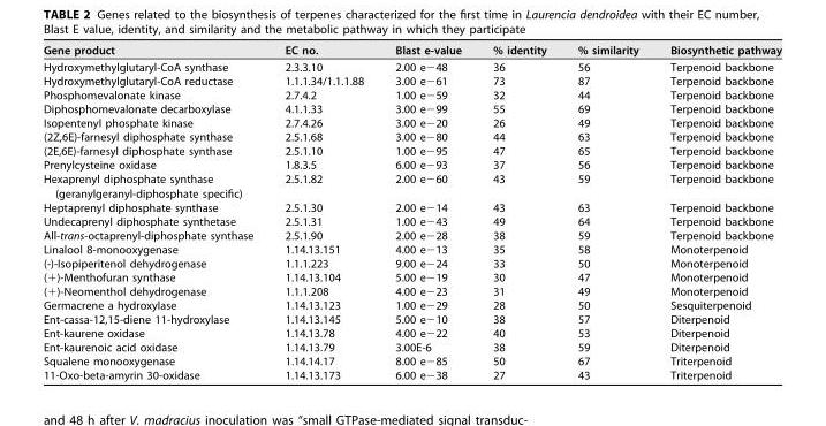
<table><thead><tr><td>Gene product</td><td>EC no.</td><td>Blast e-value</td><td>% identity</td><td>% similarity</td><td>Biosynthetic pathway</td></tr></thead><tbody><tr><td>Hydroxymethylglutaryl-CoA synthase</td><td>2.3.3.10</td><td>2.00 e−48</td><td>36</td><td>56</td><td>Terpenoid backbone</td></tr><tr><td>Hydroxymethylglutaryl-CoA reductase</td><td>1.1.1.34/1.1.1.88</td><td>3.00 e−61</td><td>73</td><td>87</td><td>Terpenoid backbone</td></tr><tr><td>Phosphomevalonate kinase</td><td>2.7.4.2</td><td>1.00 e−59</td><td>32</td><td>44</td><td>Terpenoid backbone</td></tr><tr><td>Diphosphomevalonate decarboxylase</td><td>4.1.1.33</td><td>3.00 e−99</td><td>55</td><td>69</td><td>Terpenoid backbone</td></tr><tr><td>Isopentenyl phosphate kinase</td><td>2.7.4.26</td><td>3.00 e−20</td><td>26</td><td>49</td><td>Terpenoid backbone</td></tr><tr><td>(2Z,6E)-farnesyl diphosphate synthase</td><td>2.5.1.68</td><td>3.00 e−80</td><td>44</td><td>63</td><td>Terpenoid backbone</td></tr><tr><td>(2E,6E)-farnesyl diphosphate synthase</td><td>2.5.1.10</td><td>1.00 e−95</td><td>47</td><td>65</td><td>Terpenoid backbone</td></tr><tr><td>Prenylcysteine oxidase</td><td>1.8.3.5</td><td>6.00 e−93</td><td>37</td><td>56</td><td>Terpenoid backbone</td></tr><tr><td>Hexaprenyl diphosphate synthase (geranylgeranyl-diphosphate specific)</td><td>2.5.1.82</td><td>2.00 e−60</td><td>43</td><td>59</td><td>Terpenoid backbone</td></tr><tr><td>Heptaprenyl diphosphate synthase</td><td>2.5.1.30</td><td>2.00 e−14</td><td>43</td><td>63</td><td>Terpenoid backbone</td></tr><tr><td>Undecaprenyl diphosphate synthetase</td><td>2.5.1.31</td><td>1.00 e−43</td><td>49</td><td>64</td><td>Terpenoid backbone</td></tr><tr><td>All-trans-octaprenyl-diphosphate synthase</td><td>2.5.1.90</td><td>2.00 e−28</td><td>38</td><td>59</td><td>Terpenoid backbone</td></tr><tr><td>Linalool 8-monooxygenase</td><td>1.14.13.151</td><td>4.00 e−13</td><td>35</td><td>58</td><td>Monoterpenoid</td></tr><tr><td>(-)-Isopiperitenol dehydrogenase</td><td>1.1.1.223</td><td>9.00 e−24</td><td>33</td><td>50</td><td>Monoterpenoid</td></tr><tr><td>(+)-Menthofuran synthase</td><td>1.14.13.104</td><td>5.00 e−19</td><td>30</td><td>47</td><td>Monoterpenoid</td></tr><tr><td>(+)-Neomenthol dehydrogenase</td><td>1.1.1.208</td><td>4.00 e−23</td><td>31</td><td>49</td><td>Monoterpenoid</td></tr><tr><td>Germacrene a hydroxylase</td><td>1.14.13.123</td><td>1.00 e−29</td><td>28</td><td>50</td><td>Sesquiterpenoid</td></tr><tr><td>Ent-cassa-12,15-diene 11-hydroxylase</td><td>1.14.13.145</td><td>5.00 e−10</td><td>38</td><td>57</td><td>Diterpenoid</td></tr><tr><td>Ent-kaurene oxidase</td><td>1.14.13.78</td><td>4.00 e−22</td><td>40</td><td>53</td><td>Diterpenoid</td></tr><tr><td>Ent-kaurenoic acid oxidase</td><td>1.14.13.79</td><td>3.00E-6</td><td>38</td><td>59</td><td>Diterpenoid</td></tr><tr><td>Squalene monooxygenase</td><td>1.14.14.17</td><td>8.00 e−85</td><td>50</td><td>67</td><td>Triterpenoid</td></tr><tr><td>11-Oxo-beta-amyrin 30-oxidase</td><td>1.14.13.173</td><td>6.00 e−38</td><td>27</td><td>43</td><td>Triterpenoid</td></tr></tbody></table>